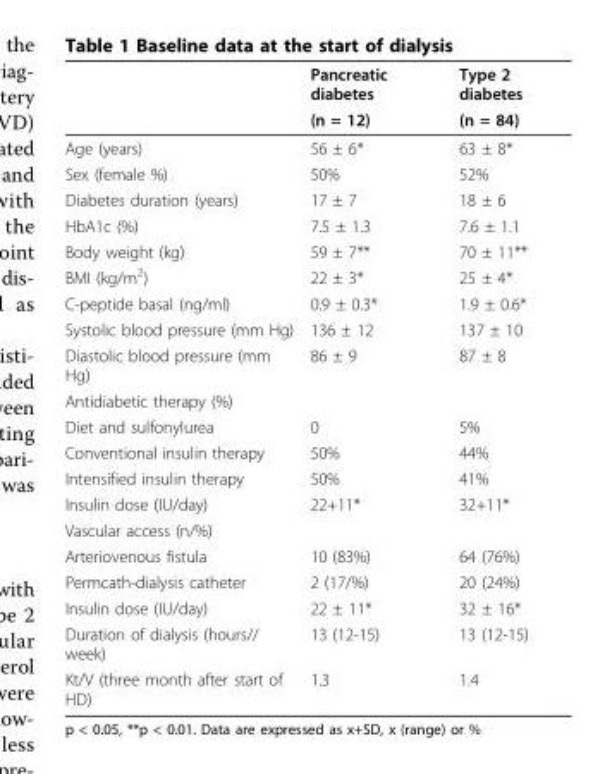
<table><thead><tr><td rowspan="2"></td><td rowspan="2">Pancreatic diabetes (n = 12)</td><td rowspan="2">Type 2 diabetes (n = 84)</td></tr><tr></tr></thead><tbody><tr><td>Age (years)</td><td>56 ± 6*</td><td>63 ± 8*</td></tr><tr><td>Sex (female %)</td><td>50%</td><td>52%</td></tr><tr><td>Diabetes duration (years)</td><td>17 ± 7</td><td>18 ± 6</td></tr><tr><td>HbA1c (%)</td><td>7.5 ± 1.3</td><td>7.6 ± 1.1</td></tr><tr><td>Body weight (kg)</td><td>59 ± 7**</td><td>70 ± 11**</td></tr><tr><td>BMI (kg/m<sup>2</sup>)</td><td>22 ± 3*</td><td>25 ± 4*</td></tr><tr><td>C-peptide basal (ng/ml)</td><td>0.9 ± 0.3*</td><td>1.9 ± 0.6*</td></tr><tr><td>Systolic blood pressure (mm Hg)</td><td>136 ± 12</td><td>137 ± 10</td></tr><tr><td>Diastolic blood pressure (mm Hg)</td><td>86 ± 9</td><td>87 ± 8</td></tr><tr><td colspan="3">Antidiabetic therapy (%)</td></tr><tr><td>Diet and sulfonylurea</td><td>0</td><td>5%</td></tr><tr><td>Conventional insulin therapy</td><td>50%</td><td>44%</td></tr><tr><td>Intensified insulin therapy</td><td>50%</td><td>41%</td></tr><tr><td>Insulin dose (IU/day)</td><td>22+11*</td><td>32+11*</td></tr><tr><td colspan="3">Vascular access (n/%)</td></tr><tr><td>Arteriovenous fistula</td><td>10 (83%)</td><td>64 (76%)</td></tr><tr><td>Permcath-dialysis catheter</td><td>2 (17/%)</td><td>20 (24%)</td></tr><tr><td>Insulin dose (IU/day)</td><td>22 ± 11*</td><td>32 ± 16*</td></tr><tr><td>Duration of dialysis (hours// week)</td><td>13 (12-15)</td><td>13 (12-15)</td></tr><tr><td>Kt/V (three month after start of HD)</td><td>1.3</td><td>1.4</td></tr></tbody></table>